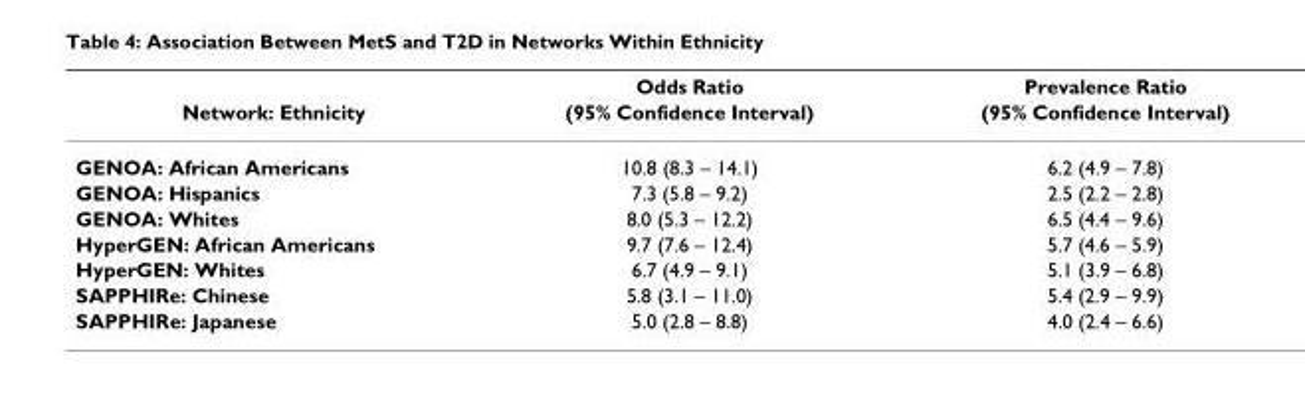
<table><thead><tr><td rowspan="2">Network: Ethnicity</td><td rowspan="2">Odds Ratio (95% Confidence Interval)</td><td rowspan="2">Prevalence Ratio (95% Confidence Interval)</td></tr><tr></tr></thead><tbody><tr><td>GENOA: African Americans</td><td>10.8 (8.3 – 14.1)</td><td>6.2 (4.9 – 7.8)</td></tr><tr><td>GENOA: Hispanics</td><td>7.3 (5.8 – 9.2)</td><td>2.5 (2.2 – 2.8)</td></tr><tr><td>GENOA: Whites</td><td>8.0 (5.3 – 12.2)</td><td>6.5 (4.4 – 9.6)</td></tr><tr><td>HyperGEN: African Americans</td><td>9.7 (7.6 – 12.4)</td><td>5.7 (4.6 – 5.9)</td></tr><tr><td>HyperGEN: Whites</td><td>6.7 (4.9 – 9.1)</td><td>5.1 (3.9 – 6.8)</td></tr><tr><td>SAPPHIRe: Chinese</td><td>5.8 (3.1 – 11.0)</td><td>5.4 (2.9 – 9.9)</td></tr><tr><td>SAPPHIRe: Japanese</td><td>5.0 (2.8 – 8.8)</td><td>4.0 (2.4 – 6.6)</td></tr></tbody></table>